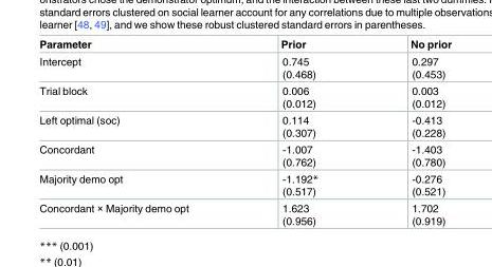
<table><thead><tr><td>Parameter</td><td>Prior</td><td>No prior</td></tr></thead><tbody><tr><td>Intercept</td><td>0.745 (0.468)</td><td>0.297 (0.453)</td></tr><tr><td>Trial block</td><td>0.006 (0.012)</td><td>0.003 (0.012)</td></tr><tr><td>Left optimal (soc)</td><td>0.114 (0.307)</td><td>-0.413 (0.228)</td></tr><tr><td>Concordant</td><td>-1.007 (0.762)</td><td>-1.403 (0.780)</td></tr><tr><td>Majority demo opt</td><td>-1.192* (0.517)</td><td>-0.276 (0.521)</td></tr><tr><td>Concordant × Majority demo opt</td><td>1.623 (0.956)</td><td>1.702 (0.919)</td></tr></tbody></table>